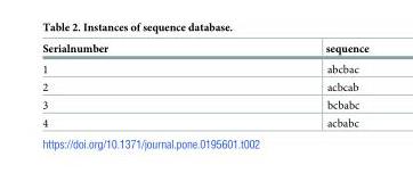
<table><thead><tr><td>Serialnumber</td><td>sequence</td></tr></thead><tbody><tr><td>1</td><td>abcbac</td></tr><tr><td>2</td><td>acbcab</td></tr><tr><td>3</td><td>bcbabc</td></tr><tr><td>4</td><td>acbabc</td></tr></tbody></table>